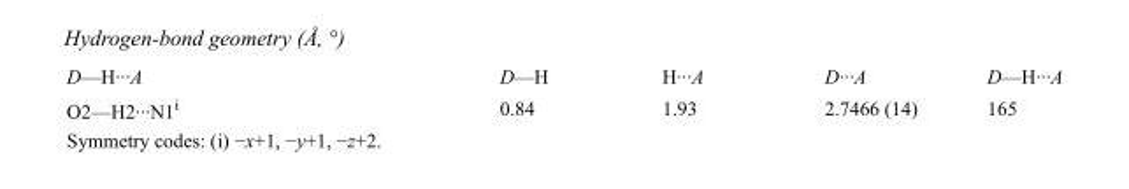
<table><tbody><tr><td>D—H···A</td><td>D—H</td><td>H···A</td><td>D···A</td><td>D—H···A</td></tr><tr><td>O2—H2···N1<sup>i</sup></td><td>0.84</td><td>1.93</td><td>2.7466 (14)</td><td>165</td></tr></tbody></table>